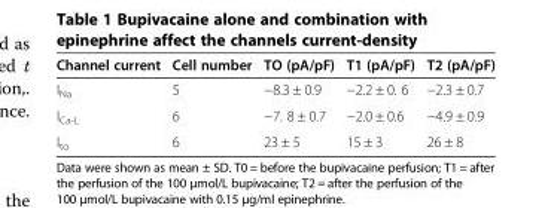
<table><thead><tr><td>Channel current</td><td>Cell number</td><td>TO (pA/pF)</td><td>T1 (pA/pF)</td><td>T2 (pA/pF)</td></tr></thead><tbody><tr><td>I<sub>Na</sub></td><td>5</td><td>−8.3 ± 0.9</td><td>−2.2 ± 0. 6</td><td>−2.3 ± 0.7</td></tr><tr><td>I<sub>Ca-L</sub></td><td>6</td><td>−7. 8 ± 0.7</td><td>−2.0 ± 0.6</td><td>−4.9 ± 0.9</td></tr><tr><td>I<sub>to</sub></td><td>6</td><td>23 ± 5</td><td>15 ± 3</td><td>26 ± 8</td></tr></tbody></table>